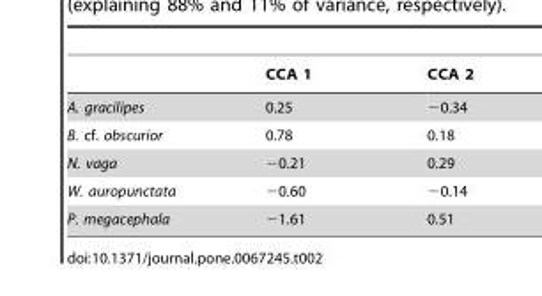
<table><thead><tr><td></td><td>CCA 1</td><td>CCA 2</td></tr></thead><tbody><tr><td>A. gracilipes</td><td>0.25</td><td>−0.34</td></tr><tr><td>B. cf. obscurior</td><td>0.78</td><td>0.18</td></tr><tr><td>N. vaga</td><td>−0.21</td><td>0.29</td></tr><tr><td>W. auropunctata</td><td>−0.60</td><td>−0.14</td></tr><tr><td>P. megacephala</td><td>−1.61</td><td>0.51</td></tr></tbody></table>